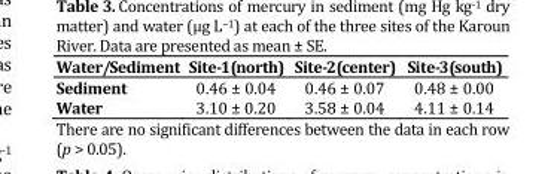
<table><thead><tr><td>Water/Sediment</td><td>Site-1 (north)</td><td>Site-2 (center)</td><td>Site-3 (south)</td></tr></thead><tbody><tr><td>Sediment</td><td>0.46 ± 0.04</td><td>0.46 ± 0.07</td><td>0.48 ± 0.00</td></tr><tr><td>Water</td><td>3.10 ± 0.20</td><td>3.58 ± 0.04</td><td>4.11 ± 0.14</td></tr></tbody></table>